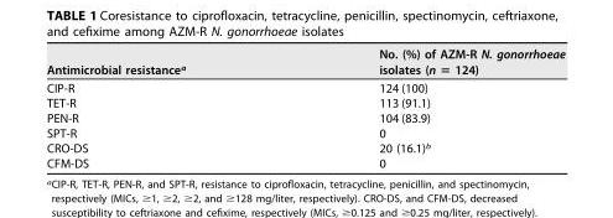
<table><thead><tr><td>Antimicrobial resistance<sup>a</sup></td><td>No. (%) of AZM-R N. gonorrhoeae isolates (n = 124)</td></tr></thead><tbody><tr><td>CIP-R</td><td>124 (100)</td></tr><tr><td>TET-R</td><td>113 (91.1)</td></tr><tr><td>PEN-R</td><td>104 (83.9)</td></tr><tr><td>SPT-R</td><td>0</td></tr><tr><td>CRO-DS</td><td>20 (16.1)<sup>b</sup></td></tr><tr><td>CFM-DS</td><td>0</td></tr></tbody></table>